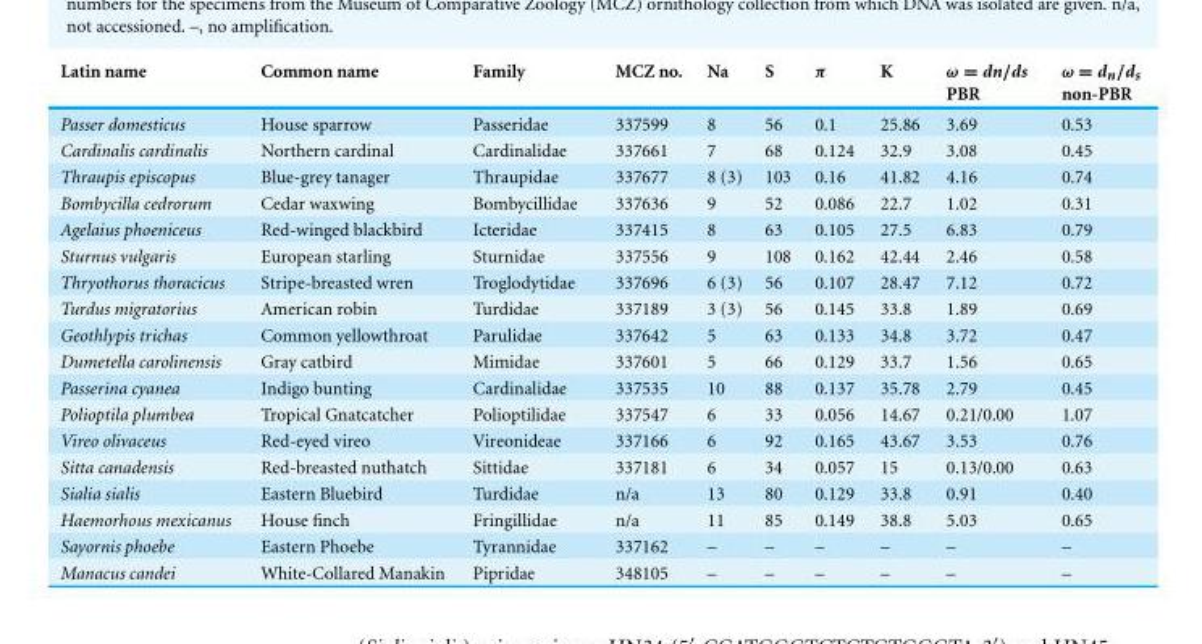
<table><thead><tr><td>Latin name</td><td>Common name</td><td>Family</td><td>MCZ no.</td><td>Na</td><td>S</td><td>π</td><td>K</td><td>ω = dn/ds PBR</td><td>ω = d<sub>n</sub>/d<sub>s</sub> non-PBR</td></tr></thead><tbody><tr><td>Passer domesticus</td><td>House sparrow</td><td>Passeridae</td><td>337599</td><td>8</td><td>56</td><td>0.1</td><td>25.86</td><td>3.69</td><td>0.53</td></tr><tr><td>Cardinalis cardinalis</td><td>Northern cardinal</td><td>Cardinalidae</td><td>337661</td><td>7</td><td>68</td><td>0.124</td><td>32.9</td><td>3.08</td><td>0.45</td></tr><tr><td>Thraupis episcopus</td><td>Blue-grey tanager</td><td>Thraupidae</td><td>337677</td><td>8 (3)</td><td>103</td><td>0.16</td><td>41.82</td><td>4.16</td><td>0.74</td></tr><tr><td>Bombycilla cedrorum</td><td>Cedar waxwing</td><td>Bombycillidae</td><td>337636</td><td>9</td><td>52</td><td>0.086</td><td>22.7</td><td>1.02</td><td>0.31</td></tr><tr><td>Agelaius phoeniceus</td><td>Red-winged blackbird</td><td>Icteridae</td><td>337415</td><td>8</td><td>63</td><td>0.105</td><td>27.5</td><td>6.83</td><td>0.79</td></tr><tr><td>Sturnus vulgaris</td><td>European starling</td><td>Sturnidae</td><td>337556</td><td>9</td><td>108</td><td>0.162</td><td>42.44</td><td>2.46</td><td>0.58</td></tr><tr><td>Thryothorus thoracicus</td><td>Stripe-breasted wren</td><td>Troglodytidae</td><td>337696</td><td>6 (3)</td><td>56</td><td>0.107</td><td>28.47</td><td>7.12</td><td>0.72</td></tr><tr><td>Turdus migratorius</td><td>American robin</td><td>Turdidae</td><td>337189</td><td>3 (3)</td><td>56</td><td>0.145</td><td>33.8</td><td>1.89</td><td>0.69</td></tr><tr><td>Geothlypis trichas</td><td>Common yellowthroat</td><td>Parulidae</td><td>337642</td><td>5</td><td>63</td><td>0.133</td><td>34.8</td><td>3.72</td><td>0.47</td></tr><tr><td>Dumetella carolinensis</td><td>Gray catbird</td><td>Mimidae</td><td>337601</td><td>5</td><td>66</td><td>0.129</td><td>33.7</td><td>1.56</td><td>0.65</td></tr><tr><td>Passerina cyanea</td><td>Indigo bunting</td><td>Cardinalidae</td><td>337535</td><td>10</td><td>88</td><td>0.137</td><td>35.78</td><td>2.79</td><td>0.45</td></tr><tr><td>Polioptila plumbea</td><td>Tropical Gnatcatcher</td><td>Polioptilidae</td><td>337547</td><td>6</td><td>33</td><td>0.056</td><td>14.67</td><td>0.21/0.00</td><td>1.07</td></tr><tr><td>Vireo olivaceus</td><td>Red-eyed vireo</td><td>Vireonideae</td><td>337166</td><td>6</td><td>92</td><td>0.165</td><td>43.67</td><td>3.53</td><td>0.76</td></tr><tr><td>Sitta canadensis</td><td>Red-breasted nuthatch</td><td>Sittidae</td><td>337181</td><td>6</td><td>34</td><td>0.057</td><td>15</td><td>0.13/0.00</td><td>0.63</td></tr><tr><td>Sialia sialis</td><td>Eastern Bluebird</td><td>Turdidae</td><td>n/a</td><td>13</td><td>80</td><td>0.129</td><td>33.8</td><td>0.91</td><td>0.40</td></tr><tr><td>Haemorhous mexicanus</td><td>House finch</td><td>Fringillidae</td><td>n/a</td><td>11</td><td>85</td><td>0.149</td><td>38.8</td><td>5.03</td><td>0.65</td></tr><tr><td>Sayornis phoebe</td><td>Eastern Phoebe</td><td>Tyrannidae</td><td>337162</td><td>–</td><td>–</td><td>–</td><td>–</td><td>–</td><td>–</td></tr><tr><td>Manacus candei</td><td>White-Collared Manakin</td><td>Pipridae</td><td>348105</td><td>–</td><td>–</td><td>–</td><td>–</td><td>–</td><td>–</td></tr></tbody></table>